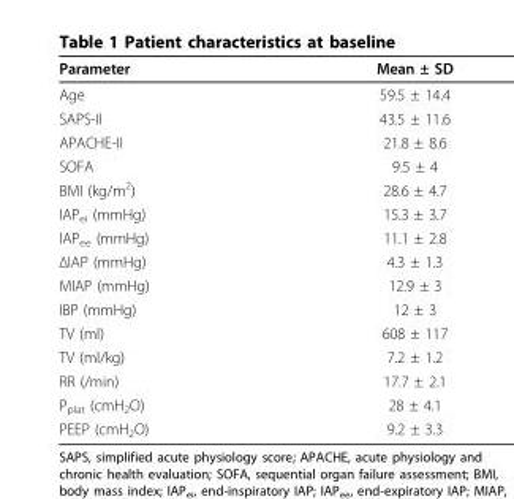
<table><thead><tr><td>Parameter</td><td>Mean ± SD</td></tr></thead><tbody><tr><td>Age</td><td>59.5 ± 14.4</td></tr><tr><td>SAPS-II</td><td>43.5 ± 11.6</td></tr><tr><td>APACHE-II</td><td>21.8 ± 8.6</td></tr><tr><td>SOFA</td><td>9.5 ± 4</td></tr><tr><td>BMI (kg/m<sup>2</sup>)</td><td>28.6 ± 4.7</td></tr><tr><td>IAP<sub>ei</sub> (mmHg)</td><td>15.3 ± 3.7</td></tr><tr><td>IAP<sub>ee</sub> (mmHg)</td><td>11.1 ± 2.8</td></tr><tr><td>ΔIAP (mmHg)</td><td>4.3 ± 1.3</td></tr><tr><td>MIAP (mmHg)</td><td>12.9 ± 3</td></tr><tr><td>IBP (mmHg)</td><td>12 ± 3</td></tr><tr><td>TV (ml)</td><td>608 ± 117</td></tr><tr><td>TV (ml/kg)</td><td>7.2 ± 1.2</td></tr><tr><td>RR (/min)</td><td>17.7 ± 2.1</td></tr><tr><td>P<sub>plat</sub> (cmH<sub>2</sub>O)</td><td>28 ± 4.1</td></tr><tr><td>PEEP (cmH<sub>2</sub>O)</td><td>9.2 ± 3.3</td></tr></tbody></table>